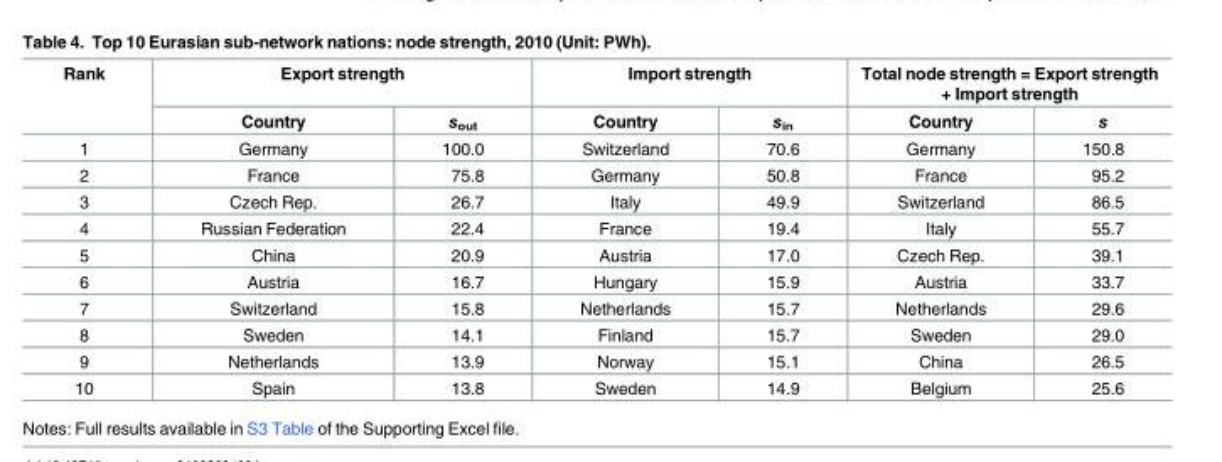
<table><thead><tr><td rowspan="2">Rank</td><td colspan="2">Export strength</td><td colspan="2">Import strength</td><td colspan="2">Total node strength = Export strength + Import strength</td></tr><tr><td>Country</td><td>s<sub>out</sub></td><td>Country</td><td>s<sub>in</sub></td><td>Country</td><td>s</td></tr></thead><tbody><tr><td>1</td><td>Germany</td><td>100.0</td><td>Switzerland</td><td>70.6</td><td>Germany</td><td>150.8</td></tr><tr><td>2</td><td>France</td><td>75.8</td><td>Germany</td><td>50.8</td><td>France</td><td>95.2</td></tr><tr><td>3</td><td>Czech Rep.</td><td>26.7</td><td>Italy</td><td>49.9</td><td>Switzerland</td><td>86.5</td></tr><tr><td>4</td><td>Russian Federation</td><td>22.4</td><td>France</td><td>19.4</td><td>Italy</td><td>55.7</td></tr><tr><td>5</td><td>China</td><td>20.9</td><td>Austria</td><td>17.0</td><td>Czech Rep.</td><td>39.1</td></tr><tr><td>6</td><td>Austria</td><td>16.7</td><td>Hungary</td><td>15.9</td><td>Austria</td><td>33.7</td></tr><tr><td>7</td><td>Switzerland</td><td>15.8</td><td>Netherlands</td><td>15.7</td><td>Netherlands</td><td>29.6</td></tr><tr><td>8</td><td>Sweden</td><td>14.1</td><td>Finland</td><td>15.7</td><td>Sweden</td><td>29.0</td></tr><tr><td>9</td><td>Netherlands</td><td>13.9</td><td>Norway</td><td>15.1</td><td>China</td><td>26.5</td></tr><tr><td>10</td><td>Spain</td><td>13.8</td><td>Sweden</td><td>14.9</td><td>Belgium</td><td>25.6</td></tr></tbody></table>